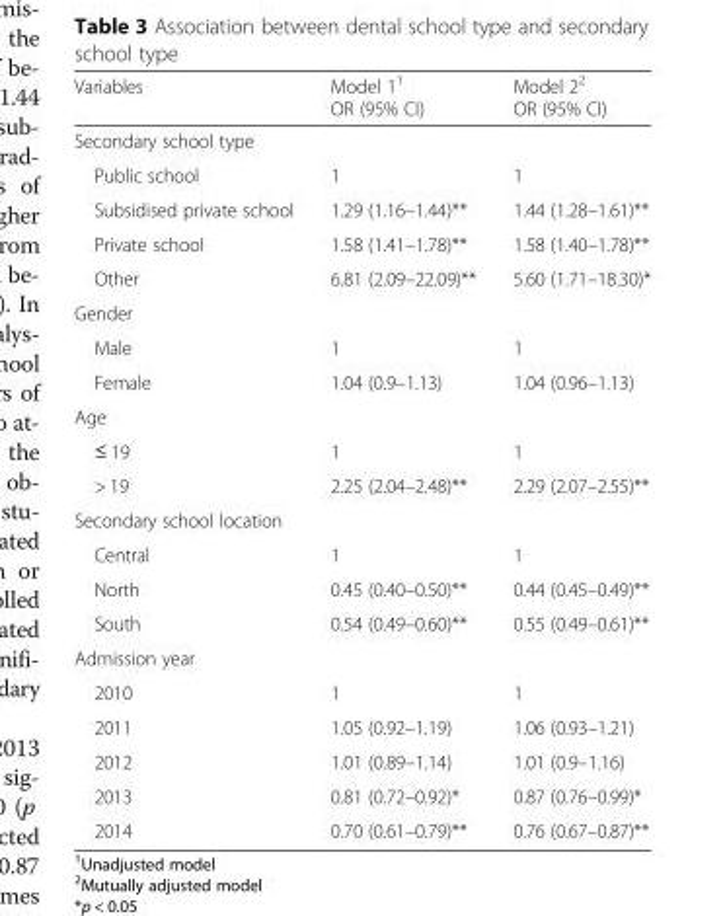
<table><thead><tr><td>Variables</td><td>Model 1<sup>1</sup> OR (95% CI)</td><td>Model 2<sup>2</sup> OR (95% CI)</td></tr></thead><tbody><tr><td colspan="3">Secondary school type</td></tr><tr><td>Public school</td><td>1</td><td>1</td></tr><tr><td>Subsidised private school</td><td>1.29 (1.16–1.44)**</td><td>1.44 (1.28–1.61)**</td></tr><tr><td>Private school</td><td>1.58 (1.41–1.78)**</td><td>1.58 (1.40–1.78)**</td></tr><tr><td>Other</td><td>6.81 (2.09–22.09)**</td><td>5.60 (1.71–18.30)*</td></tr><tr><td colspan="3">Gender</td></tr><tr><td>Male</td><td>1</td><td>1</td></tr><tr><td>Female</td><td>1.04 (0.9–1.13)</td><td>1.04 (0.96–1.13)</td></tr><tr><td colspan="3">Age</td></tr><tr><td>≤ 19</td><td>1</td><td>1</td></tr><tr><td>&gt; 19</td><td>2.25 (2.04–2.48)**</td><td>2.29 (2.07–2.55)**</td></tr><tr><td colspan="3">Secondary school location</td></tr><tr><td>Central</td><td>1</td><td>1</td></tr><tr><td>North</td><td>0.45 (0.40–0.50)**</td><td>0.44 (0.45–0.49)**</td></tr><tr><td>South</td><td>0.54 (0.49–0.60)**</td><td>0.55 (0.49–0.61)**</td></tr><tr><td colspan="3">Admission year</td></tr><tr><td>2010</td><td>1</td><td>1</td></tr><tr><td>2011</td><td>1.05 (0.92–1.19)</td><td>1.06 (0.93–1.21)</td></tr><tr><td>2012</td><td>1.01 (0.89–1.14)</td><td>1.01 (0.9–1.16)</td></tr><tr><td>2013</td><td>0.81 (0.72–0.92)*</td><td>0.87 (0.76–0.99)*</td></tr><tr><td>2014</td><td>0.70 (0.61–0.79)**</td><td>0.76 (0.67–0.87)**</td></tr></tbody></table>